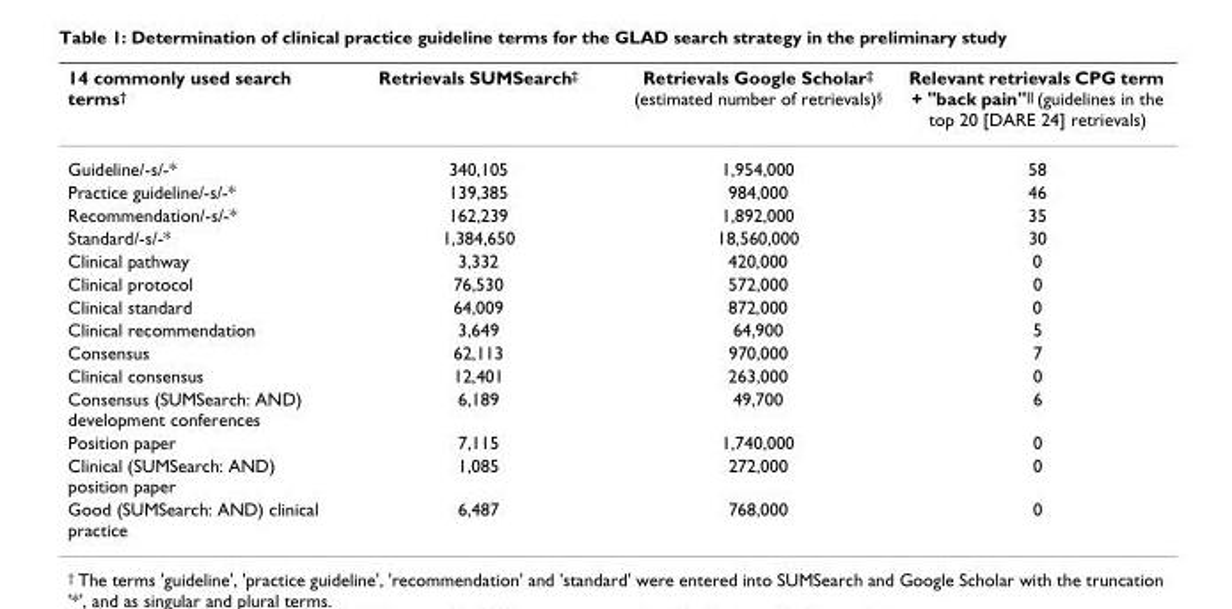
<table><thead><tr><td>14 commonly used search terms<sup>†</sup></td><td>Retrievals SUMSearch<sup>‡</sup></td><td>Retrievals Google Scholar<sup>‡</sup> (estimated number of retrievals)<sup>§</sup></td><td>Relevant retrievals CPG term + &quot;back pain&quot;<sup>||</sup> (guidelines in the top 20 [DARE 24] retrievals)</td></tr></thead><tbody><tr><td>Guideline/-s/-*</td><td>340,105</td><td>1,954,000</td><td>58</td></tr><tr><td>Practice guideline/-s/-*</td><td>139,385</td><td>984,000</td><td>46</td></tr><tr><td>Recommendation/-s/-*</td><td>162,239</td><td>1,892,000</td><td>35</td></tr><tr><td>Standard/-s/-*</td><td>1,384,650</td><td>18,560,000</td><td>30</td></tr><tr><td>Clinical pathway</td><td>3,332</td><td>420,000</td><td>0</td></tr><tr><td>Clinical protocol</td><td>76,530</td><td>572,000</td><td>0</td></tr><tr><td>Clinical standard</td><td>64,009</td><td>872,000</td><td>0</td></tr><tr><td>Clinical recommendation</td><td>3,649</td><td>64,900</td><td>5</td></tr><tr><td>Consensus</td><td>62,113</td><td>970,000</td><td>7</td></tr><tr><td>Clinical consensus</td><td>12,401</td><td>263,000</td><td>0</td></tr><tr><td>Consensus (SUMSearch: AND) development conferences</td><td>6,189</td><td>49,700</td><td>6</td></tr><tr><td>Position paper</td><td>7,115</td><td>1,740,000</td><td>0</td></tr><tr><td>Clinical (SUMSearch: AND) position paper</td><td>1,085</td><td>272,000</td><td>0</td></tr><tr><td>Good (SUMSearch: AND) clinical practice</td><td>6,487</td><td>768,000</td><td>0</td></tr></tbody></table>